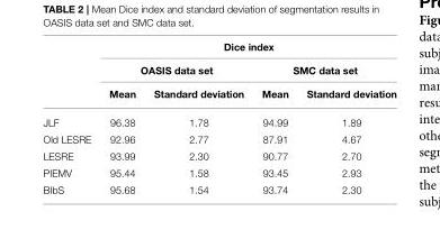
<table><thead><tr><td rowspan="3"></td><td colspan="4">Dice index</td></tr><tr><td colspan="2">OASIS data set</td><td colspan="2">SMC data set</td></tr><tr><td>Mean</td><td>Standard deviation</td><td>Mean</td><td>Standard deviation</td></tr></thead><tbody><tr><td>JLF</td><td>96.38</td><td>1.78</td><td>94.99</td><td>1.89</td></tr><tr><td>Old LESRE</td><td>92.96</td><td>2.77</td><td>87.91</td><td>4.67</td></tr><tr><td>LESRE</td><td>93.99</td><td>2.30</td><td>90.77</td><td>2.70</td></tr><tr><td>PIEMV</td><td>95.44</td><td>1.58</td><td>93.45</td><td>2.93</td></tr><tr><td>BIbS</td><td>95.68</td><td>1.54</td><td>93.74</td><td>2.30</td></tr></tbody></table>